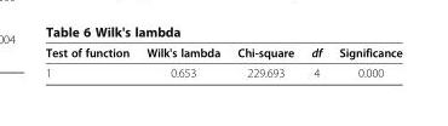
<table><thead><tr><td>Test of function</td><td>Wilk&#x27;s lambda</td><td>Chi-square</td><td>df</td><td>Significance</td></tr></thead><tbody><tr><td>1</td><td>0.653</td><td>229.693</td><td>4</td><td>0.000</td></tr></tbody></table>